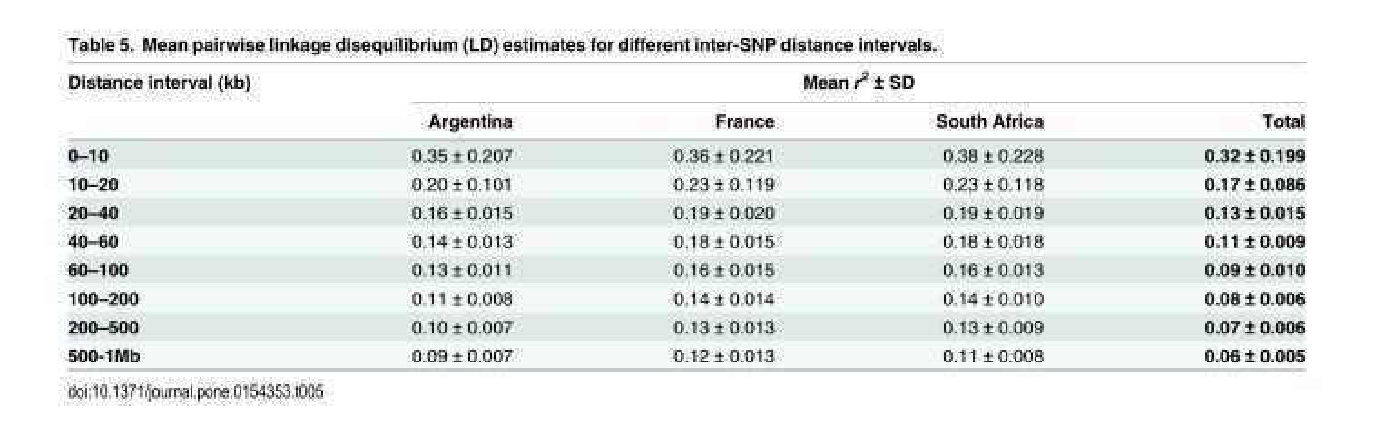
<table><thead><tr><td rowspan="2">Distance interval (kb)</td><td colspan="4">Mean r<sup>2</sup> ± SD</td></tr><tr><td>Argentina</td><td>France</td><td>South Africa</td><td>Total</td></tr></thead><tbody><tr><td>0–10</td><td>0.35 ± 0.207</td><td>0.36 ± 0.221</td><td>0.38 ± 0.228</td><td>0.32 ± 0.199</td></tr><tr><td>10–20</td><td>0.20 ± 0.101</td><td>0.23 ± 0.119</td><td>0.23 ± 0.118</td><td>0.17 ± 0.086</td></tr><tr><td>20–40</td><td>0.16 ± 0.015</td><td>0.19 ± 0.020</td><td>0.19 ± 0.019</td><td>0.13 ± 0.015</td></tr><tr><td>40–60</td><td>0.14 ± 0.013</td><td>0.18 ± 0.015</td><td>0.18 ± 0.018</td><td>0.11 ± 0.009</td></tr><tr><td>60–100</td><td>0.13 ± 0.011</td><td>0.16 ± 0.015</td><td>0.16 ± 0.013</td><td>0.09 ± 0.010</td></tr><tr><td>100–200</td><td>0.11 ± 0.008</td><td>0.14 ± 0.014</td><td>0.14 ± 0.010</td><td>0.08 ± 0.006</td></tr><tr><td>200–500</td><td>0.10 ± 0.007</td><td>0.13 ± 0.013</td><td>0.13 ± 0.009</td><td>0.07 ± 0.006</td></tr><tr><td>500-1Mb</td><td>0.09 ± 0.007</td><td>0.12 ± 0.013</td><td>0.11 ± 0.008</td><td>0.06 ± 0.005</td></tr></tbody></table>